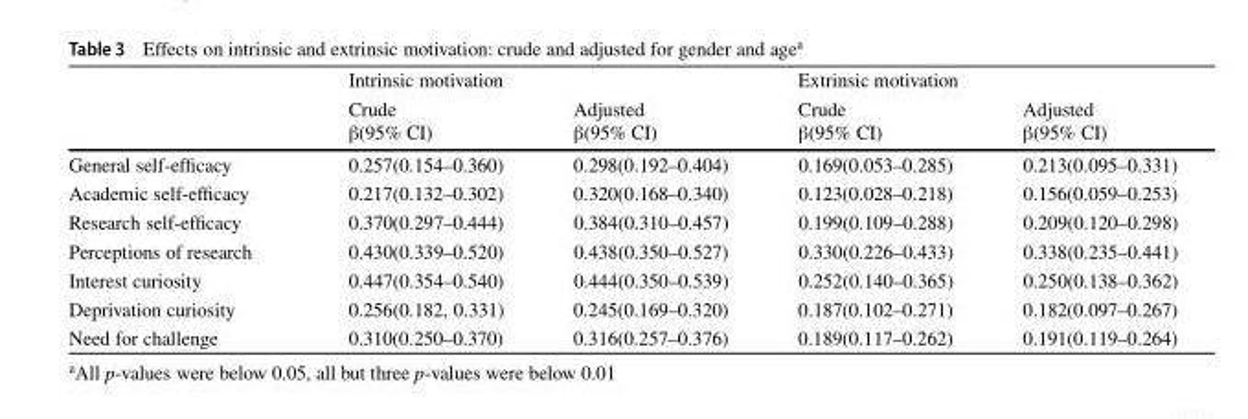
<table><thead><tr><td rowspan="2"></td><td colspan="2">Intrinsic motivation</td><td colspan="2">Extrinsic motivation</td></tr><tr><td>Crude β(95% CI)</td><td>Adjusted β(95% CI)</td><td>Crude β(95% CI)</td><td>Adjusted β(95% CI)</td></tr></thead><tbody><tr><td>General self-efficacy</td><td>0.257(0.154–0.360)</td><td>0.298(0.192–0.404)</td><td>0.169(0.053–0.285)</td><td>0.213(0.095–0.331)</td></tr><tr><td>Academic self-efficacy</td><td>0.217(0.132–0.302)</td><td>0.320(0.168–0.340)</td><td>0.123(0.028–0.218)</td><td>0.156(0.059–0.253)</td></tr><tr><td>Research self-efficacy</td><td>0.370(0.297–0.444)</td><td>0.384(0.310–0.457)</td><td>0.199(0.109–0.288)</td><td>0.209(0.120–0.298)</td></tr><tr><td>Perceptions of research</td><td>0.430(0.339–0.520)</td><td>0.438(0.350–0.527)</td><td>0.330(0.226–0.433)</td><td>0.338(0.235–0.441)</td></tr><tr><td>Interest curiosity</td><td>0.447(0.354–0.540)</td><td>0.444(0.350–0.539)</td><td>0.252(0.140–0.365)</td><td>0.250(0.138–0.362)</td></tr><tr><td>Deprivation curiosity</td><td>0.256(0.182, 0.331)</td><td>0.245(0.169–0.320)</td><td>0.187(0.102–0.271)</td><td>0.182(0.097–0.267)</td></tr><tr><td>Need for challenge</td><td>0.310(0.250–0.370)</td><td>0.316(0.257–0.376)</td><td>0.189(0.117–0.262)</td><td>0.191(0.119–0.264)</td></tr></tbody></table>